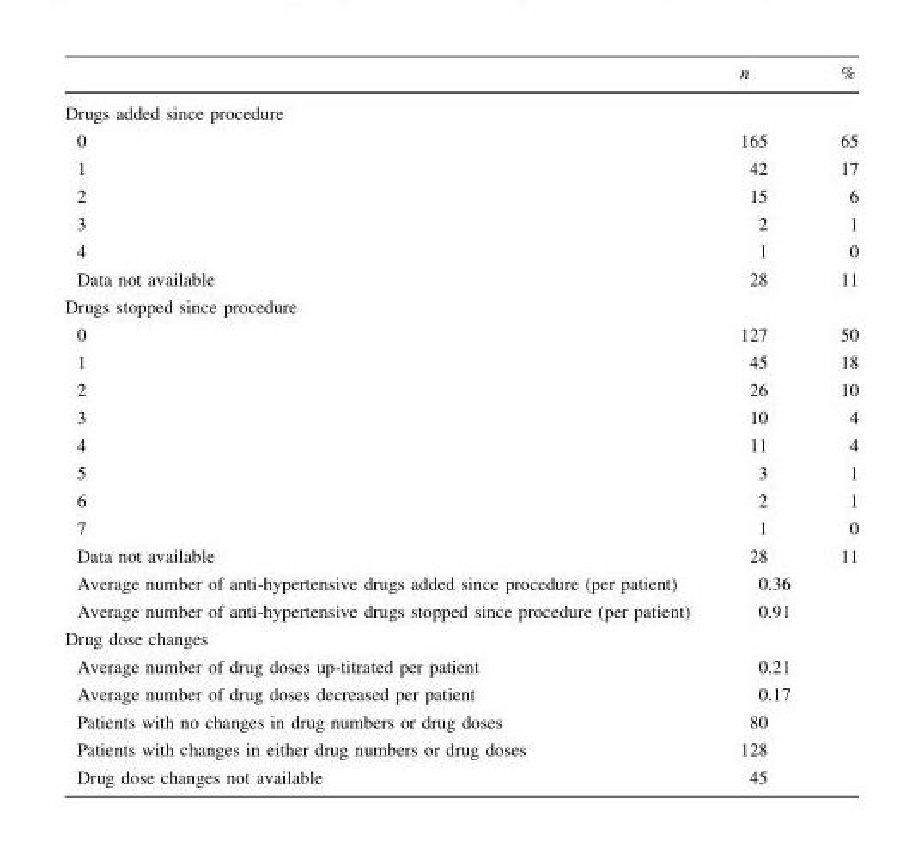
<table><thead><tr><td></td><td>n</td><td>%</td></tr></thead><tbody><tr><td colspan="3">Drugs added since procedure</td></tr><tr><td>0</td><td>165</td><td>65</td></tr><tr><td>1</td><td>42</td><td>17</td></tr><tr><td>2</td><td>15</td><td>6</td></tr><tr><td>3</td><td>2</td><td>1</td></tr><tr><td>4</td><td>1</td><td>0</td></tr><tr><td>Data not available</td><td>28</td><td>11</td></tr><tr><td colspan="3">Drugs stopped since procedure</td></tr><tr><td>0</td><td>127</td><td>50</td></tr><tr><td>1</td><td>45</td><td>18</td></tr><tr><td>2</td><td>26</td><td>10</td></tr><tr><td>3</td><td>10</td><td>4</td></tr><tr><td>4</td><td>11</td><td>4</td></tr><tr><td>5</td><td>3</td><td>1</td></tr><tr><td>6</td><td>2</td><td>1</td></tr><tr><td>7</td><td>1</td><td>0</td></tr><tr><td>Data not available</td><td>28</td><td>11</td></tr><tr><td>Average number of anti-hypertensive drugs added since procedure (per patient)</td><td>0.36</td><td></td></tr><tr><td>Average number of anti-hypertensive drugs stopped since procedure (per patient)</td><td>0.91</td><td></td></tr><tr><td colspan="3">Drug dose changes</td></tr><tr><td>Average number of drug doses up-titrated per patient</td><td>0.21</td><td></td></tr><tr><td>Average number of drug doses decreased per patient</td><td>0.17</td><td></td></tr><tr><td>Patients with no changes in drug numbers or drug doses</td><td>80</td><td></td></tr><tr><td>Patients with changes in either drug numbers or drug doses</td><td>128</td><td></td></tr><tr><td>Drug dose changes not available</td><td>45</td><td></td></tr></tbody></table>